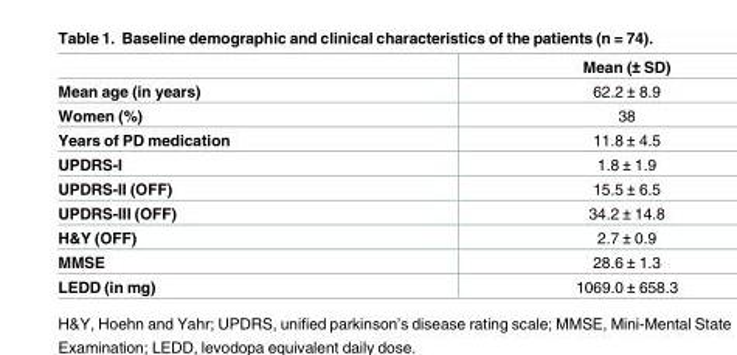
<table><thead><tr><td></td><td>Mean (± SD)</td></tr></thead><tbody><tr><td>Mean age (in years)</td><td>62.2 ± 8.9</td></tr><tr><td>Women (%)</td><td>38</td></tr><tr><td>Years of PD medication</td><td>11.8 ± 4.5</td></tr><tr><td>UPDRS-I</td><td>1.8 ± 1.9</td></tr><tr><td>UPDRS-II (OFF)</td><td>15.5 ± 6.5</td></tr><tr><td>UPDRS-III (OFF)</td><td>34.2 ± 14.8</td></tr><tr><td>H&amp;Y (OFF)</td><td>2.7 ± 0.9</td></tr><tr><td>MMSE</td><td>28.6 ± 1.3</td></tr><tr><td>LEDD (in mg)</td><td>1069.0 ± 658.3</td></tr></tbody></table>